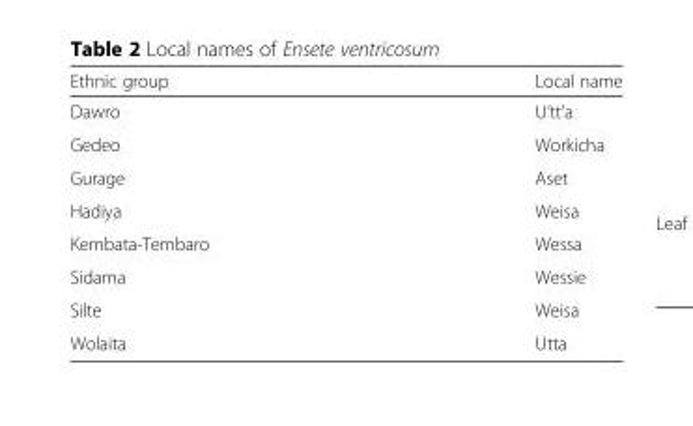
<table><thead><tr><td>Ethnic group</td><td>Local name</td></tr></thead><tbody><tr><td>Dawro</td><td>U’tt’a</td></tr><tr><td>Gedeo</td><td>Workicha</td></tr><tr><td>Gurage</td><td>Aset</td></tr><tr><td>Hadiya</td><td>Weisa</td></tr><tr><td>Kembata-Tembaro</td><td>Wessa</td></tr><tr><td>Sidama</td><td>Wessie</td></tr><tr><td>Silte</td><td>Weisa</td></tr><tr><td>Wolaita</td><td>Utta</td></tr></tbody></table>